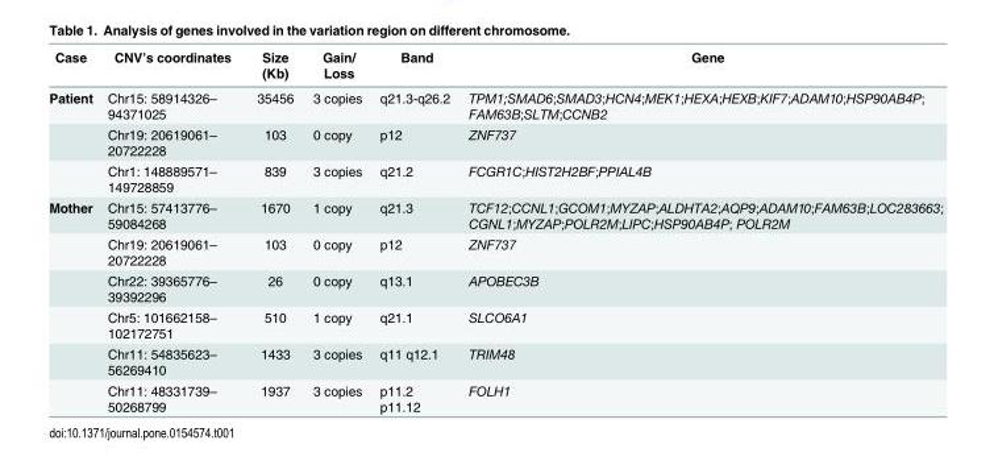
<table><thead><tr><td>Case</td><td>CNV’s coordinates</td><td>Size (Kb)</td><td>Gain/ Loss</td><td>Band</td><td>Gene</td></tr></thead><tbody><tr><td rowspan="3">Patient</td><td>Chr15: 58914326– 94371025</td><td>35456</td><td>3 copies</td><td>q21.3-q26.2</td><td>TPM1;SMAD6;SMAD3;HCN4;MEK1;HEXA;HEXB;KIF7;ADAM10;HSP90AB4P; FAM63B;SLTM;CCNB2</td></tr><tr><td>Chr19: 20619061– 20722228</td><td>103</td><td>0 copy</td><td>p12</td><td>ZNF737</td></tr><tr><td>Chr1: 148889571– 149728859</td><td>839</td><td>3 copies</td><td>q21.2</td><td>FCGR1C;HIST2H2BF;PPIAL4B</td></tr><tr><td rowspan="6">Mother</td><td>Chr15: 57413776– 59084268</td><td>1670</td><td>1 copy</td><td>q21.3</td><td>TCF12;CCNL1;GCOM1;MYZAP;ALDHTA2;AQP9;ADAM10;FAM63B;LOC283663; CGNL1;MYZAP;POLR2M;LIPC;HSP90AB4P; POLR2M</td></tr><tr><td>Chr19: 20619061– 20722228</td><td>103</td><td>0 copy</td><td>p12</td><td>ZNF737</td></tr><tr><td>Chr22: 39365776– 39392296</td><td>26</td><td>0 copy</td><td>q13.1</td><td>APOBEC3B</td></tr><tr><td>Chr5: 101662158– 102172751</td><td>510</td><td>1 copy</td><td>q21.1</td><td>SLCO6A1</td></tr><tr><td>Chr11: 54835623– 56269410</td><td>1433</td><td>3 copies</td><td>q11 q12.1</td><td>TRIM48</td></tr><tr><td>Chr11: 48331739– 50268799</td><td>1937</td><td>3 copies</td><td>p11.2 p11.12</td><td>FOLH1</td></tr></tbody></table>